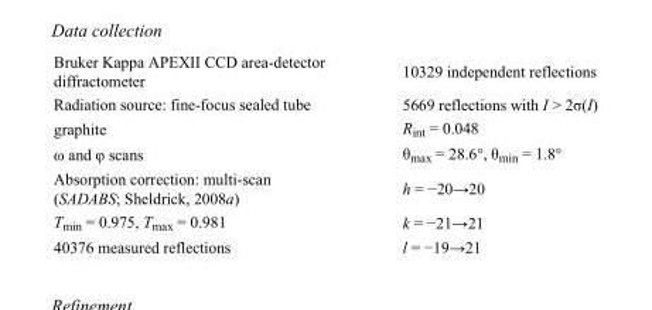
<table><tbody><tr><td>Bruker Kappa APEXII CCD area-detector diffractometer</td><td>10329 independent reflections</td></tr><tr><td>Radiation source: fine-focus sealed tube</td><td>5669 reflections with I &gt; 2σ(I)</td></tr><tr><td>graphite</td><td>R<sub>int</sub> = 0.048</td></tr><tr><td>ω and φ scans</td><td>θ<sub>max</sub> = 28.6°, θ<sub>min</sub> = 1.8°</td></tr><tr><td>Absorption correction: multi-scan (SADABS; Sheldrick, 2008a)</td><td>h = −20→20</td></tr><tr><td>T<sub>min</sub> = 0.975, T<sub>max</sub> = 0.981</td><td>k = −21→21</td></tr><tr><td>40376 measured reflections</td><td>l = −19→21</td></tr></tbody></table>